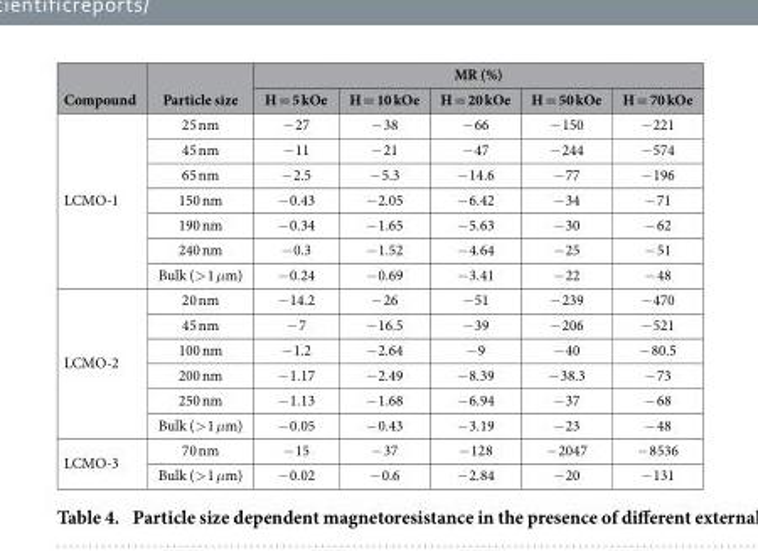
<table><thead><tr><td rowspan="2">Compound</td><td rowspan="2">Particle size</td><td colspan="5">MR (%)</td></tr><tr><td>H = 5 kOe</td><td>H = 10 kOe</td><td>H = 20 kOe</td><td>H = 50 kOe</td><td>H = 70 kOe</td></tr></thead><tbody><tr><td rowspan="7">LCMO-1</td><td>25 nm</td><td>− 27</td><td>− 38</td><td>− 66</td><td>− 150</td><td>− 221</td></tr><tr><td>45 nm</td><td>− 11</td><td>− 21</td><td>− 47</td><td>− 244</td><td>− 574</td></tr><tr><td>65 nm</td><td>− 2.5</td><td>− 5.3</td><td>− 14.6</td><td>− 77</td><td>− 196</td></tr><tr><td>150 nm</td><td>− 0.43</td><td>− 2.05</td><td>− 6.42</td><td>− 34</td><td>− 71</td></tr><tr><td>190 nm</td><td>− 0.34</td><td>− 1.65</td><td>− 5.63</td><td>− 30</td><td>− 62</td></tr><tr><td>240 nm</td><td>− 0.3</td><td>− 1.52</td><td>− 4.64</td><td>− 25</td><td>− 51</td></tr><tr><td>Bulk (&gt; 1 μm)</td><td>− 0.24</td><td>− 0.69</td><td>− 3.41</td><td>− 22</td><td>− 48</td></tr><tr><td rowspan="6">LCMO-2</td><td>20 nm</td><td>− 14.2</td><td>− 26</td><td>− 51</td><td>− 239</td><td>− 470</td></tr><tr><td>45 nm</td><td>− 7</td><td>− 16.5</td><td>− 39</td><td>− 206</td><td>− 521</td></tr><tr><td>100 nm</td><td>− 1.2</td><td>− 2.64</td><td>− 9</td><td>− 40</td><td>− 80.5</td></tr><tr><td>200 nm</td><td>− 1.17</td><td>− 2.49</td><td>− 8.39</td><td>− 38.3</td><td>− 73</td></tr><tr><td>250 nm</td><td>− 1.13</td><td>− 1.68</td><td>− 6.94</td><td>− 37</td><td>− 68</td></tr><tr><td>Bulk (&gt; 1 μm)</td><td>− 0.05</td><td>− 0.43</td><td>− 3.19</td><td>− 23</td><td>− 48</td></tr><tr><td rowspan="2">LCMO-3</td><td>70 nm</td><td>− 15</td><td>− 37</td><td>− 128</td><td>− 2047</td><td>− 8536</td></tr><tr><td>Bulk (&gt; 1 μm)</td><td>− 0.02</td><td>− 0.6</td><td>− 2.84</td><td>− 20</td><td>− 131</td></tr></tbody></table>